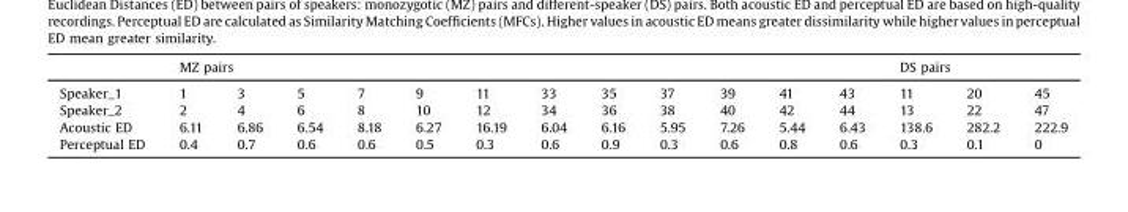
<table><thead><tr><td rowspan="2">Speaker_1</td><td colspan="12">MZ pairs</td><td colspan="3">DS pairs</td></tr><tr><td>1</td><td>3</td><td>5</td><td>7</td><td>9</td><td>11</td><td>33</td><td>35</td><td>37</td><td>39</td><td>41</td><td>43</td><td>11</td><td>20</td><td>45</td></tr></thead><tbody><tr><td>Speaker_2</td><td>2</td><td>4</td><td>6</td><td>8</td><td>10</td><td>12</td><td>34</td><td>36</td><td>38</td><td>40</td><td>42</td><td>44</td><td>13</td><td>22</td><td>47</td></tr><tr><td>Acoustic ED</td><td>6.11</td><td>6.86</td><td>6.54</td><td>8.18</td><td>6.27</td><td>16.19</td><td>6.04</td><td>6.16</td><td>5.95</td><td>7.26</td><td>5.44</td><td>6.43</td><td>138.6</td><td>282.2</td><td>222.9</td></tr><tr><td>Perceptual ED</td><td>0.4</td><td>0.7</td><td>0.6</td><td>0.6</td><td>0.5</td><td>0.3</td><td>0.6</td><td>0.9</td><td>0.3</td><td>0.6</td><td>0.8</td><td>0.6</td><td>0.3</td><td>0.1</td><td>0</td></tr></tbody></table>